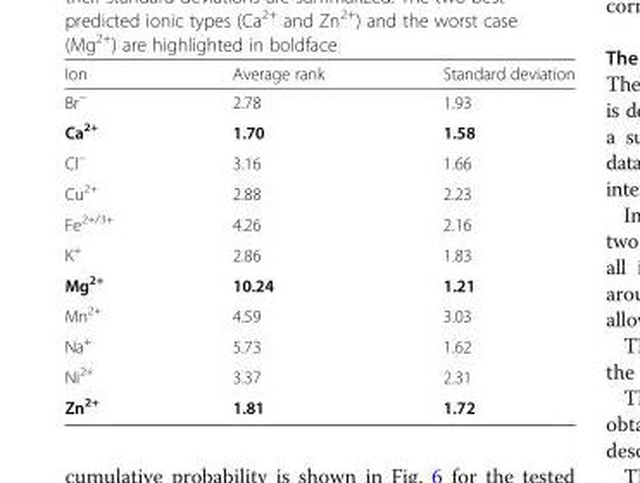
<table><thead><tr><td>Ion</td><td>Average rank</td><td>Standard deviation</td></tr></thead><tbody><tr><td>Br<sup>−</sup></td><td>2.78</td><td>1.93</td></tr><tr><td>Ca<sup>2+</sup></td><td>1.70</td><td>1.58</td></tr><tr><td>Cl<sup>−</sup></td><td>3.16</td><td>1.66</td></tr><tr><td>Cu<sup>2+</sup></td><td>2.88</td><td>2.23</td></tr><tr><td>Fe<sup>2+/3+</sup></td><td>4.26</td><td>2.16</td></tr><tr><td>K<sup>+</sup></td><td>2.86</td><td>1.83</td></tr><tr><td>Mg<sup>2+</sup></td><td>10.24</td><td>1.21</td></tr><tr><td>Mn<sup>2+</sup></td><td>4.59</td><td>3.03</td></tr><tr><td>Na<sup>+</sup></td><td>5.73</td><td>1.62</td></tr><tr><td>Ni<sup>2+</sup></td><td>3.37</td><td>2.31</td></tr><tr><td>Zn<sup>2+</sup></td><td>1.81</td><td>1.72</td></tr></tbody></table>